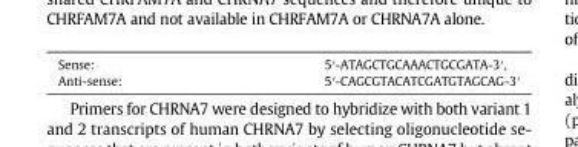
<table><tbody><tr><td>Sense:</td><td>5′-ATAGCTGCAAACTGCGATA-3′,</td></tr><tr><td>Anti-sense:</td><td>5′-CAGCGTACATCGATGTAGCAG-3′</td></tr></tbody></table>